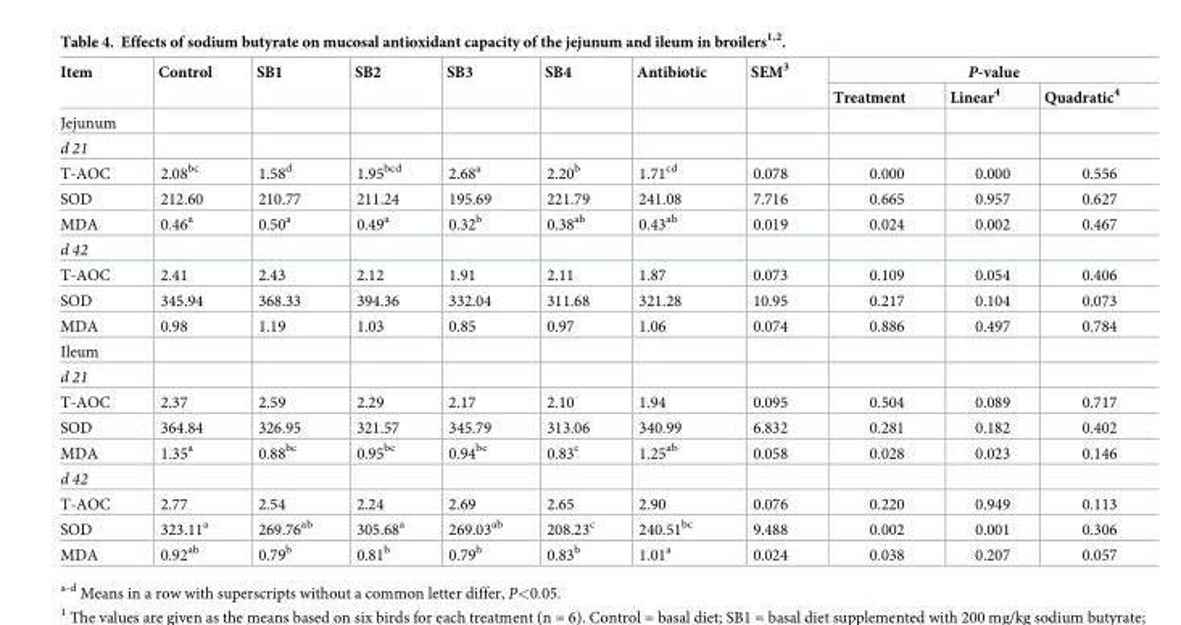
<table><thead><tr><td rowspan="2">Item</td><td rowspan="2">Control</td><td rowspan="2">SB1</td><td rowspan="2">SB2</td><td rowspan="2">SB3</td><td rowspan="2">SB4</td><td rowspan="2">Antibiotic</td><td rowspan="2">SEM<sup>3</sup></td><td colspan="3">P-value</td></tr><tr><td>Treatment</td><td>Linear<sup>4</sup></td><td>Quadratic<sup>4</sup></td></tr></thead><tbody><tr><td colspan="11">Jejunum</td></tr><tr><td colspan="11">d 21</td></tr><tr><td>T-AOC</td><td>2.08<sup>bc</sup></td><td>1.58<sup>d</sup></td><td>1.95<sup>bcd</sup></td><td>2.68<sup>a</sup></td><td>2.20<sup>b</sup></td><td>1.71<sup>cd</sup></td><td>0.078</td><td>0.000</td><td>0.000</td><td>0.556</td></tr><tr><td>SOD</td><td>212.60</td><td>210.77</td><td>211.24</td><td>195.69</td><td>221.79</td><td>241.08</td><td>7.716</td><td>0.665</td><td>0.957</td><td>0.627</td></tr><tr><td>MDA</td><td>0.46<sup>a</sup></td><td>0.50<sup>a</sup></td><td>0.49<sup>a</sup></td><td>0.32<sup>b</sup></td><td>0.38<sup>ab</sup></td><td>0.43<sup>ab</sup></td><td>0.019</td><td>0.024</td><td>0.002</td><td>0.467</td></tr><tr><td colspan="11">d 42</td></tr><tr><td>T-AOC</td><td>2.41</td><td>2.43</td><td>2.12</td><td>1.91</td><td>2.11</td><td>1.87</td><td>0.073</td><td>0.109</td><td>0.054</td><td>0.406</td></tr><tr><td>SOD</td><td>345.94</td><td>368.33</td><td>394.36</td><td>332.04</td><td>311.68</td><td>321.28</td><td>10.95</td><td>0.217</td><td>0.104</td><td>0.073</td></tr><tr><td>MDA</td><td>0.98</td><td>1.19</td><td>1.03</td><td>0.85</td><td>0.97</td><td>1.06</td><td>0.074</td><td>0.886</td><td>0.497</td><td>0.784</td></tr><tr><td colspan="11">Ileum</td></tr><tr><td colspan="11">d 21</td></tr><tr><td>T-AOC</td><td>2.37</td><td>2.59</td><td>2.29</td><td>2.17</td><td>2.10</td><td>1.94</td><td>0.095</td><td>0.504</td><td>0.089</td><td>0.717</td></tr><tr><td>SOD</td><td>364.84</td><td>326.95</td><td>321.57</td><td>345.79</td><td>313.06</td><td>340.99</td><td>6.832</td><td>0.281</td><td>0.182</td><td>0.402</td></tr><tr><td>MDA</td><td>1.35<sup>a</sup></td><td>0.88<sup>bc</sup></td><td>0.95<sup>bc</sup></td><td>0.94<sup>bc</sup></td><td>0.83<sup>c</sup></td><td>1.25<sup>ab</sup></td><td>0.058</td><td>0.028</td><td>0.023</td><td>0.146</td></tr><tr><td colspan="11">d 42</td></tr><tr><td>T-AOC</td><td>2.77</td><td>2.54</td><td>2.24</td><td>2.69</td><td>2.65</td><td>2.90</td><td>0.076</td><td>0.220</td><td>0.949</td><td>0.113</td></tr><tr><td>SOD</td><td>323.11<sup>a</sup></td><td>269.76<sup>ab</sup></td><td>305.68<sup>a</sup></td><td>269.03<sup>ab</sup></td><td>208.23<sup>c</sup></td><td>240.51<sup>bc</sup></td><td>9.488</td><td>0.002</td><td>0.001</td><td>0.306</td></tr><tr><td>MDA</td><td>0.92<sup>ab</sup></td><td>0.79<sup>b</sup></td><td>0.81<sup>b</sup></td><td>0.79<sup>b</sup></td><td>0.83<sup>b</sup></td><td>1.01<sup>a</sup></td><td>0.024</td><td>0.038</td><td>0.207</td><td>0.057</td></tr></tbody></table>